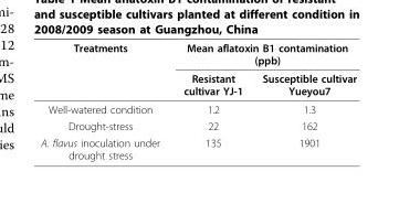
<table><thead><tr><td rowspan="2">Treatments</td><td colspan="2">Mean aflatoxin B1 contamination (ppb)</td></tr><tr><td>Resistant cultivar YJ-1</td><td>Susceptible cultivar Yueyou7</td></tr></thead><tbody><tr><td>Well-watered condition</td><td>1.2</td><td>1.3</td></tr><tr><td>Drought-stress</td><td>22</td><td>162</td></tr><tr><td>A. flavus inoculation under drought stress</td><td>135</td><td>1901</td></tr></tbody></table>